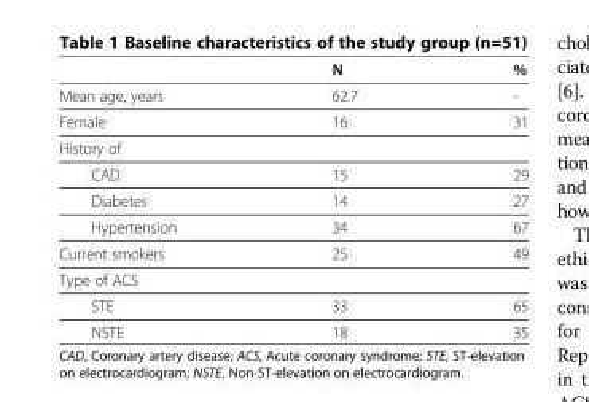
<table><thead><tr><td></td><td>N</td><td>%</td></tr></thead><tbody><tr><td>Mean age, years</td><td>62.7</td><td>-</td></tr><tr><td>Female</td><td>16</td><td>31</td></tr><tr><td colspan="3">History of</td></tr><tr><td>CAD</td><td>15</td><td>29</td></tr><tr><td>Diabetes</td><td>14</td><td>27</td></tr><tr><td>Hypertension</td><td>34</td><td>67</td></tr><tr><td>Current smokers</td><td>25</td><td>49</td></tr><tr><td colspan="3">Type of ACS</td></tr><tr><td>STE</td><td>33</td><td>65</td></tr><tr><td>NSTE</td><td>18</td><td>35</td></tr></tbody></table>